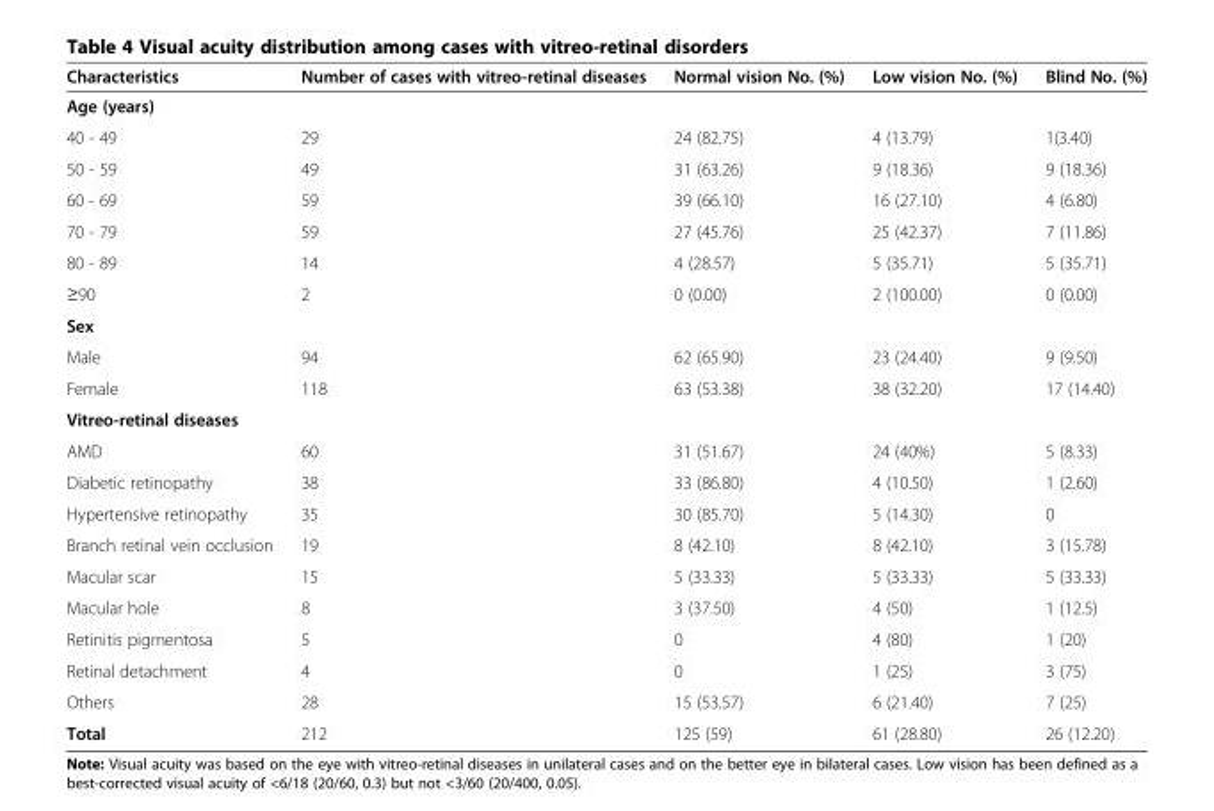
<table><thead><tr><td>Characteristics</td><td>Number of cases with vitreo-retinal diseases</td><td>Normal vision No. (%)</td><td>Low vision No. (%)</td><td>Blind No. (%)</td></tr></thead><tbody><tr><td colspan="5">Age (years)</td></tr><tr><td>40 - 49</td><td>29</td><td>24 (82.75)</td><td>4 (13.79)</td><td>1(3.40)</td></tr><tr><td>50 - 59</td><td>49</td><td>31 (63.26)</td><td>9 (18.36)</td><td>9 (18.36)</td></tr><tr><td>60 - 69</td><td>59</td><td>39 (66.10)</td><td>16 (27.10)</td><td>4 (6.80)</td></tr><tr><td>70 - 79</td><td>59</td><td>27 (45.76)</td><td>25 (42.37)</td><td>7 (11.86)</td></tr><tr><td>80 - 89</td><td>14</td><td>4 (28.57)</td><td>5 (35.71)</td><td>5 (35.71)</td></tr><tr><td>≥90</td><td>2</td><td>0 (0.00)</td><td>2 (100.00)</td><td>0 (0.00)</td></tr><tr><td colspan="5">Sex</td></tr><tr><td>Male</td><td>94</td><td>62 (65.90)</td><td>23 (24.40)</td><td>9 (9.50)</td></tr><tr><td>Female</td><td>118</td><td>63 (53.38)</td><td>38 (32.20)</td><td>17 (14.40)</td></tr><tr><td colspan="5">Vitreo-retinal diseases</td></tr><tr><td>AMD</td><td>60</td><td>31 (51.67)</td><td>24 (40%)</td><td>5 (8.33)</td></tr><tr><td>Diabetic retinopathy</td><td>38</td><td>33 (86.80)</td><td>4 (10.50)</td><td>1 (2.60)</td></tr><tr><td>Hypertensive retinopathy</td><td>35</td><td>30 (85.70)</td><td>5 (14.30)</td><td>0</td></tr><tr><td>Branch retinal vein occlusion</td><td>19</td><td>8 (42.10)</td><td>8 (42.10)</td><td>3 (15.78)</td></tr><tr><td>Macular scar</td><td>15</td><td>5 (33.33)</td><td>5 (33.33)</td><td>5 (33.33)</td></tr><tr><td>Macular hole</td><td>8</td><td>3 (37.50)</td><td>4 (50)</td><td>1 (12.5)</td></tr><tr><td>Retinitis pigmentosa</td><td>5</td><td>0</td><td>4 (80)</td><td>1 (20)</td></tr><tr><td>Retinal detachment</td><td>4</td><td>0</td><td>1 (25)</td><td>3 (75)</td></tr><tr><td>Others</td><td>28</td><td>15 (53.57)</td><td>6 (21.40)</td><td>7 (25)</td></tr><tr><td>Total</td><td>212</td><td>125 (59)</td><td>61 (28.80)</td><td>26 (12.20)</td></tr></tbody></table>